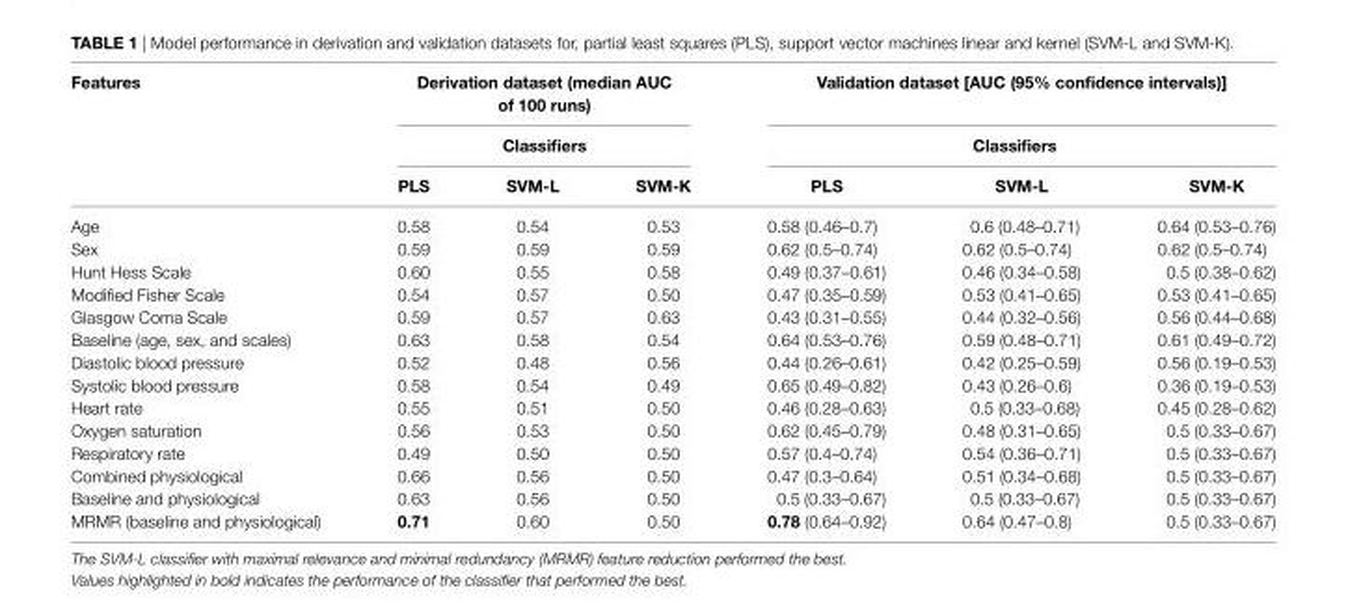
<table><thead><tr><td rowspan="3">Features</td><td rowspan="2" colspan="3">Derivation dataset (median aUc of 100 runs) classifiers</td><td rowspan="2" colspan="3">Validation dataset [aUc (95% confidence intervals)] classifiers</td></tr><tr></tr><tr><td>Pls</td><td>sVM-l</td><td>sVM-K</td><td>Pls</td><td>sVM-l</td><td>sVM-K</td></tr></thead><tbody><tr><td>Age</td><td>0.58</td><td>0.54</td><td>0.53</td><td>0.58 (0.46–0.7)</td><td>0.6 (0.48–0.71)</td><td>0.64 (0.53–0.76)</td></tr><tr><td>Sex</td><td>0.59</td><td>0.59</td><td>0.59</td><td>0.62 (0.5–0.74)</td><td>0.62 (0.5–0.74)</td><td>0.62 (0.5–0.74)</td></tr><tr><td>Hunt Hess Scale</td><td>0.60</td><td>0.55</td><td>0.58</td><td>0.49 (0.37–0.61)</td><td>0.46 (0.34–0.58)</td><td>0.5 (0.38–0.62)</td></tr><tr><td>Modified Fisher Scale</td><td>0.54</td><td>0.57</td><td>0.50</td><td>0.47 (0.35–0.59)</td><td>0.53 (0.41–0.65)</td><td>0.53 (0.41–0.65)</td></tr><tr><td>Glasgow Coma Scale</td><td>0.59</td><td>0.57</td><td>0.63</td><td>0.43 (0.31–0.55)</td><td>0.44 (0.32–0.56)</td><td>0.56 (0.44–0.68)</td></tr><tr><td>Baseline (age, sex, and scales)</td><td>0.63</td><td>0.58</td><td>0.54</td><td>0.64 (0.53–0.76)</td><td>0.59 (0.48–0.71)</td><td>0.61 (0.49–0.72)</td></tr><tr><td>Diastolic blood pressure</td><td>0.52</td><td>0.48</td><td>0.56</td><td>0.44 (0.26–0.61)</td><td>0.42 (0.25–0.59)</td><td>0.56 (0.19–0.53)</td></tr><tr><td>Systolic blood pressure</td><td>0.58</td><td>0.54</td><td>0.49</td><td>0.65 (0.49–0.82)</td><td>0.43 (0.26–0.6)</td><td>0.36 (0.19–0.53)</td></tr><tr><td>Heart rate</td><td>0.55</td><td>0.51</td><td>0.50</td><td>0.46 (0.28–0.63)</td><td>0.5 (0.33–0.68)</td><td>0.45 (0.28–0.62)</td></tr><tr><td>Oxygen saturation</td><td>0.56</td><td>0.53</td><td>0.50</td><td>0.62 (0.45–0.79)</td><td>0.48 (0.31–0.65)</td><td>0.5 (0.33–0.67)</td></tr><tr><td>Respiratory rate</td><td>0.49</td><td>0.50</td><td>0.50</td><td>0.57 (0.4–0.74)</td><td>0.54 (0.36–0.71)</td><td>0.5 (0.33–0.67)</td></tr><tr><td>Combined physiological</td><td>0.66</td><td>0.56</td><td>0.50</td><td>0.47 (0.3–0.64)</td><td>0.51 (0.34–0.68)</td><td>0.5 (0.33–0.67)</td></tr><tr><td>Baseline and physiological</td><td>0.63</td><td>0.56</td><td>0.50</td><td>0.5 (0.33–0.67)</td><td>0.5 (0.33–0.67)</td><td>0.5 (0.33–0.67)</td></tr><tr><td>MRMR (baseline and physiological)</td><td>0.71</td><td>0.60</td><td>0.50</td><td>0.78 (0.64–0.92)</td><td>0.64 (0.47–0.8)</td><td>0.5 (0.33–0.67)</td></tr></tbody></table>